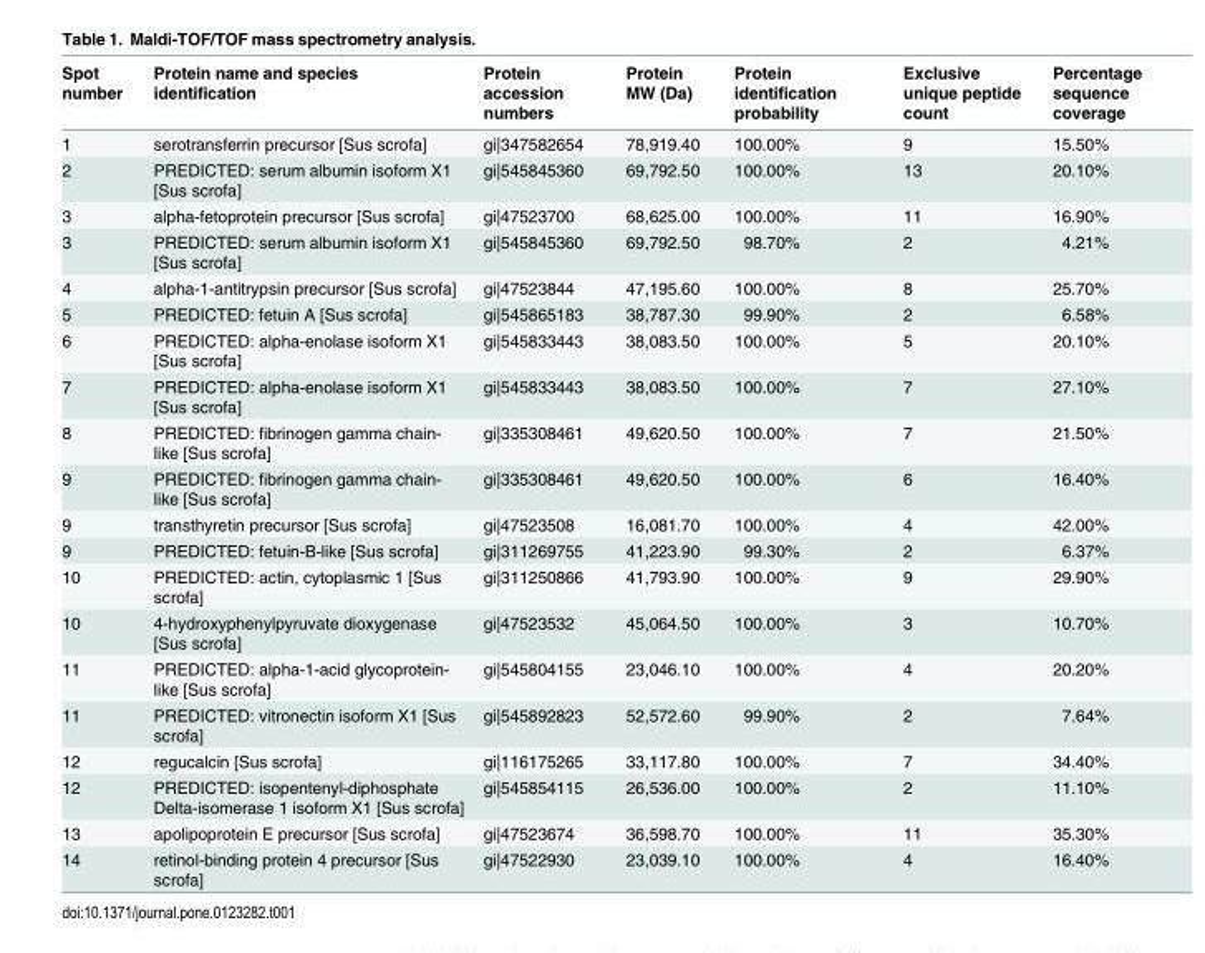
<table><thead><tr><td>Spot number</td><td>Protein name and species identification</td><td>Protein accession numbers</td><td>Protein MW (Da)</td><td>Protein identification probability</td><td>Exclusive unique peptide count</td><td>Percentage sequence coverage</td></tr></thead><tbody><tr><td>1</td><td>serotransferrin precursor [Sus scrofa]</td><td>gi|347582654</td><td>78,919.40</td><td>100.00%</td><td>9</td><td>15.50%</td></tr><tr><td>2</td><td>PREDICTED: serum albumin isoform X1 [Sus scrofa]</td><td>gi|545845360</td><td>69,792.50</td><td>100.00%</td><td>13</td><td>20.10%</td></tr><tr><td>3</td><td>alpha-fetoprotein precursor [Sus scrofa]</td><td>gi|47523700</td><td>68,625.00</td><td>100.00%</td><td>11</td><td>16.90%</td></tr><tr><td>3</td><td>PREDICTED: serum albumin isoform X1 [Sus scrofa]</td><td>gi|545845360</td><td>69,792.50</td><td>98.70%</td><td>2</td><td>4.21%</td></tr><tr><td>4</td><td>alpha-1-antitrypsin precursor [Sus scrofa]</td><td>gi|47523844</td><td>47,195.60</td><td>100.00%</td><td>8</td><td>25.70%</td></tr><tr><td>5</td><td>PREDICTED: fetuin A [Sus scrofa]</td><td>gi|545865183</td><td>38,787.30</td><td>99.90%</td><td>2</td><td>6.58%</td></tr><tr><td>6</td><td>PREDICTED: alpha-enolase isoform X1 [Sus scrofa]</td><td>gi|545833443</td><td>38,083.50</td><td>100.00%</td><td>5</td><td>20.10%</td></tr><tr><td>7</td><td>PREDICTED: alpha-enolase isoform X1 [Sus scrofa]</td><td>gi|545833443</td><td>38,083.50</td><td>100.00%</td><td>7</td><td>27.10%</td></tr><tr><td>8</td><td>PREDICTED: fibrinogen gamma chain- like [Sus scrofa]</td><td>gi|335308461</td><td>49,620.50</td><td>100.00%</td><td>7</td><td>21.50%</td></tr><tr><td>9</td><td>PREDICTED: fibrinogen gamma chain- like [Sus scrofa]</td><td>gi|335308461</td><td>49,620.50</td><td>100.00%</td><td>6</td><td>16.40%</td></tr><tr><td>9</td><td>transthyretin precursor [Sus scrofa]</td><td>gi|47523508</td><td>16,081.70</td><td>100.00%</td><td>4</td><td>42.00%</td></tr><tr><td>9</td><td>PREDICTED: fetuin-B-like [Sus scrofa]</td><td>gi|311269755</td><td>41,223.90</td><td>99.30%</td><td>2</td><td>6.37%</td></tr><tr><td>10</td><td>PREDICTED: actin, cytoplasmic 1 [Sus scrofa]</td><td>gi|311250866</td><td>41,793.90</td><td>100.00%</td><td>9</td><td>29.90%</td></tr><tr><td>10</td><td>4-hydroxyphenylpyruvate dioxygenase [Sus scrofa]</td><td>gi|47523532</td><td>45,064.50</td><td>100.00%</td><td>3</td><td>10.70%</td></tr><tr><td>11</td><td>PREDICTED: alpha-1-acid glycoprotein- like [Sus scrofa]</td><td>gi|545804155</td><td>23,046.10</td><td>100.00%</td><td>4</td><td>20.20%</td></tr><tr><td>11</td><td>PREDICTED: vitronectin isoform X1 [Sus scrofa]</td><td>gi|545892823</td><td>52,572.60</td><td>99.90%</td><td>2</td><td>7.64%</td></tr><tr><td>12</td><td>regucalcin [Sus scrofa]</td><td>gi|116175265</td><td>33,117.80</td><td>100.00%</td><td>7</td><td>34.40%</td></tr><tr><td>12</td><td>PREDICTED: isopentenyl-diphosphate Delta-isomerase 1 isoform X1 [Sus scrofa]</td><td>gi|545854115</td><td>26,536.00</td><td>100.00%</td><td>2</td><td>11.10%</td></tr><tr><td>13</td><td>apolipoprotein E precursor [Sus scrofa]</td><td>gi|47523674</td><td>36,598.70</td><td>100.00%</td><td>11</td><td>35.30%</td></tr><tr><td>14</td><td>retinol-binding protein 4 precursor [Sus scrofa]</td><td>gi|47522930</td><td>23,039.10</td><td>100.00%</td><td>4</td><td>16.40%</td></tr></tbody></table>